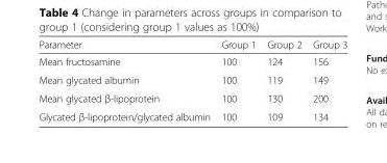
<table><thead><tr><td>Parameter</td><td>Group 1</td><td>Group 2</td><td>Group 3</td></tr></thead><tbody><tr><td>Mean fructosamine</td><td>100</td><td>124</td><td>156</td></tr><tr><td>Mean glycated albumin</td><td>100</td><td>119</td><td>149</td></tr><tr><td>Mean glycated β-lipoprotein</td><td>100</td><td>130</td><td>200</td></tr><tr><td>Glycated β-lipoprotein/glycated albumin</td><td>100</td><td>109</td><td>134</td></tr></tbody></table>